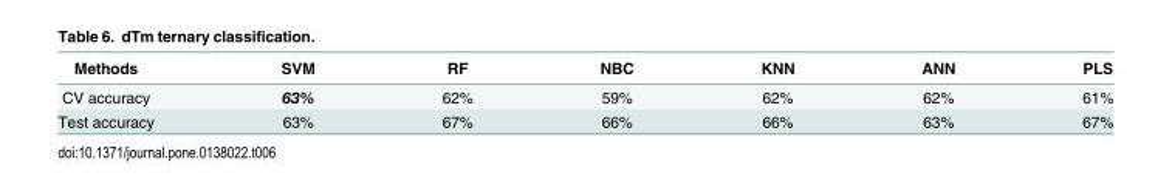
<table><thead><tr><td>Methods</td><td>SVM</td><td>RF</td><td>NBC</td><td>KNN</td><td>ANN</td><td>PLS</td></tr></thead><tbody><tr><td>CV accuracy</td><td>63%</td><td>62%</td><td>59%</td><td>62%</td><td>62%</td><td>61%</td></tr><tr><td>Test accuracy</td><td>63%</td><td>67%</td><td>66%</td><td>66%</td><td>63%</td><td>67%</td></tr></tbody></table>